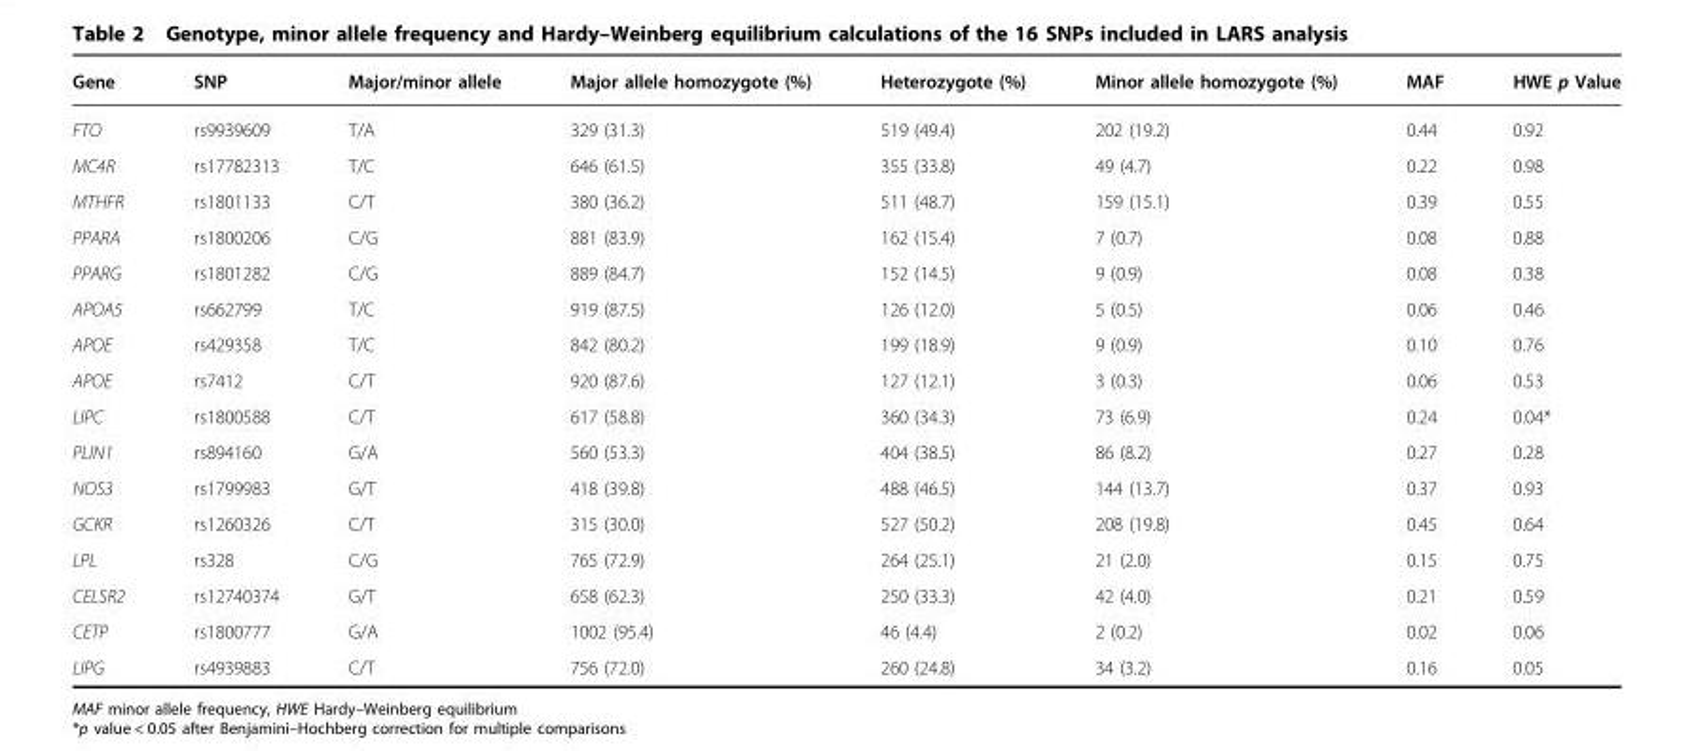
<table><thead><tr><td>Gene</td><td>SNP</td><td>Major/minor allele</td><td>Major allele homozygote (%)</td><td>Heterozygote (%)</td><td>Minor allele homozygote (%)</td><td>MAF</td><td>HWE p Value</td></tr></thead><tbody><tr><td>FTO</td><td>rs9939609</td><td>T/A</td><td>329 (31.3)</td><td>519 (49.4)</td><td>202 (19.2)</td><td>0.44</td><td>0.92</td></tr><tr><td>MC4R</td><td>rs17782313</td><td>T/C</td><td>646 (61.5)</td><td>355 (33.8)</td><td>49 (4.7)</td><td>0.22</td><td>0.98</td></tr><tr><td>MTHFR</td><td>rs1801133</td><td>C/T</td><td>380 (36.2)</td><td>511 (48.7)</td><td>159 (15.1)</td><td>0.39</td><td>0.55</td></tr><tr><td>PPARA</td><td>rs1800206</td><td>C/G</td><td>881 (83.9)</td><td>162 (15.4)</td><td>7 (0.7)</td><td>0.08</td><td>0.88</td></tr><tr><td>PPARG</td><td>rs1801282</td><td>C/G</td><td>889 (84.7)</td><td>152 (14.5)</td><td>9 (0.9)</td><td>0.08</td><td>0.38</td></tr><tr><td>APOA5</td><td>rs662799</td><td>T/C</td><td>919 (87.5)</td><td>126 (12.0)</td><td>5 (0.5)</td><td>0.06</td><td>0.46</td></tr><tr><td>APOE</td><td>rs429358</td><td>T/C</td><td>842 (80.2)</td><td>199 (18.9)</td><td>9 (0.9)</td><td>0.10</td><td>0.76</td></tr><tr><td>APOE</td><td>rs7412</td><td>C/T</td><td>920 (87.6)</td><td>127 (12.1)</td><td>3 (0.3)</td><td>0.06</td><td>0.53</td></tr><tr><td>LIPC</td><td>rs1800588</td><td>C/T</td><td>617 (58.8)</td><td>360 (34.3)</td><td>73 (6.9)</td><td>0.24</td><td>0.04*</td></tr><tr><td>PLIN1</td><td>rs894160</td><td>G/A</td><td>560 (53.3)</td><td>404 (38.5)</td><td>86 (8.2)</td><td>0.27</td><td>0.28</td></tr><tr><td>NOS3</td><td>rs1799983</td><td>G/T</td><td>418 (39.8)</td><td>488 (46.5)</td><td>144 (13.7)</td><td>0.37</td><td>0.93</td></tr><tr><td>GCKR</td><td>rs1260326</td><td>C/T</td><td>315 (30.0)</td><td>527 (50.2)</td><td>208 (19.8)</td><td>0.45</td><td>0.64</td></tr><tr><td>LPL</td><td>rs328</td><td>C/G</td><td>765 (72.9)</td><td>264 (25.1)</td><td>21 (2.0)</td><td>0.15</td><td>0.75</td></tr><tr><td>CELSR2</td><td>rs12740374</td><td>G/T</td><td>658 (62.3)</td><td>250 (33.3)</td><td>42 (4.0)</td><td>0.21</td><td>0.59</td></tr><tr><td>CETP</td><td>rs1800777</td><td>G/A</td><td>1002 (95.4)</td><td>46 (4.4)</td><td>2 (0.2)</td><td>0.02</td><td>0.06</td></tr><tr><td>LIPG</td><td>rs4939883</td><td>C/T</td><td>756 (72.0)</td><td>260 (24.8)</td><td>34 (3.2)</td><td>0.16</td><td>0.05</td></tr></tbody></table>